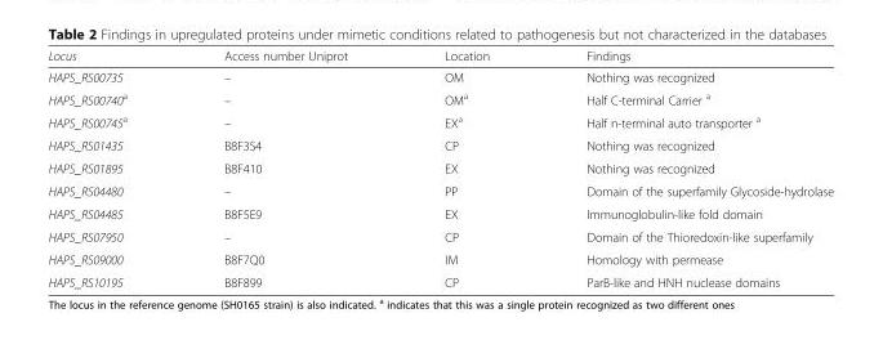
<table><thead><tr><td>Locus</td><td>Access number Uniprot</td><td>Location</td><td>Findings</td></tr></thead><tbody><tr><td>HAPS_RS00735</td><td>–</td><td>OM</td><td>Nothing was recognized</td></tr><tr><td>HAPS_RS00740<sup>a</sup></td><td>–</td><td>OM<sup>a</sup></td><td>Half C-terminal Carrier <sup>a</sup></td></tr><tr><td>HAPS_RS00745<sup>a</sup></td><td>–</td><td>EX<sup>a</sup></td><td>Half n-terminal auto transporter <sup>a</sup></td></tr><tr><td>HAPS_RS01435</td><td>B8F3S4</td><td>CP</td><td>Nothing was recognized</td></tr><tr><td>HAPS_RS01895</td><td>B8F410</td><td>EX</td><td>Nothing was recognized</td></tr><tr><td>HAPS_RS04480</td><td>–</td><td>PP</td><td>Domain of the superfamily Glycoside-hydrolase</td></tr><tr><td>HAPS_RS04485</td><td>B8F5E9</td><td>EX</td><td>Immunoglobulin-like fold domain</td></tr><tr><td>HAPS_RS07950</td><td>–</td><td>CP</td><td>Domain of the Thioredoxin-like superfamily</td></tr><tr><td>HAPS_RS09000</td><td>B8F7Q0</td><td>IM</td><td>Homology with permease</td></tr><tr><td>HAPS_RS10195</td><td>B8F899</td><td>CP</td><td>ParB-like and HNH nuclease domains</td></tr></tbody></table>